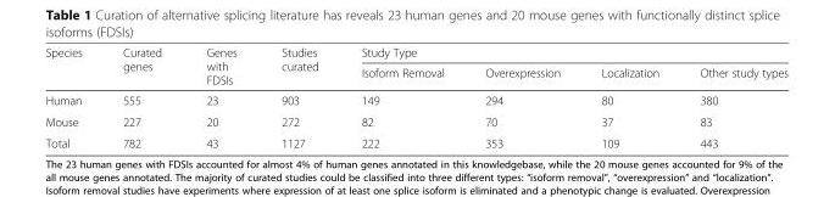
<table><thead><tr><td rowspan="2">Species</td><td rowspan="2">Curated genes</td><td rowspan="2">Genes with FDSIs</td><td rowspan="2">Studies curated</td><td colspan="4">Study Type</td></tr><tr><td>Isoform Removal</td><td>Overexpression</td><td>Localization</td><td>Other study types</td></tr></thead><tbody><tr><td>Human</td><td>555</td><td>23</td><td>903</td><td>149</td><td>294</td><td>80</td><td>380</td></tr><tr><td>Mouse</td><td>227</td><td>20</td><td>272</td><td>82</td><td>70</td><td>37</td><td>83</td></tr><tr><td>Total</td><td>782</td><td>43</td><td>1127</td><td>222</td><td>353</td><td>109</td><td>443</td></tr></tbody></table>